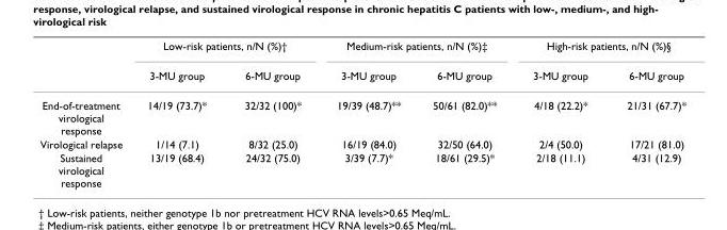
<table><thead><tr><td rowspan="2"></td><td colspan="2">Low-risk patients, n/N (%)†</td><td colspan="2">Medium-risk patients, n/N (%)‡</td><td colspan="2">High-risk patients, n/N (%)§</td></tr><tr><td>3-MU group</td><td>6-MU group</td><td>3-MU group</td><td>6-MU group</td><td>3-MU group</td><td>6-MU group</td></tr></thead><tbody><tr><td>End-of-treatment virological response</td><td>14/19 (73.7)*</td><td>32/32 (100)*</td><td>19/39 (48.7)**</td><td>50/61 (82.0)**</td><td>4/18 (22.2)*</td><td>21/31 (67.7)*</td></tr><tr><td>Virological relapse</td><td>1/14 (7.1)</td><td>8/32 (25.0)</td><td>16/19 (84.0)</td><td>32/50 (64.0)</td><td>2/4 (50.0)</td><td>17/21 (81.0)</td></tr><tr><td>Sustained virological response</td><td>13/19 (68.4)</td><td>24/32 (75.0)</td><td>3/39 (7.7)*</td><td>18/61 (29.5)*</td><td>2/18 (11.1)</td><td>4/31 (12.9)</td></tr></tbody></table>